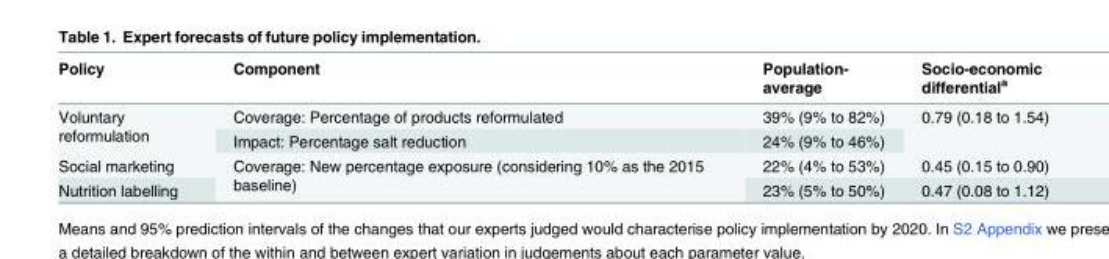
<table><thead><tr><td>Policy</td><td>Component</td><td>Population- average</td><td>Socio-economic differential<sup>a</sup></td></tr></thead><tbody><tr><td rowspan="2">Voluntary reformulation</td><td>Coverage: Percentage of products reformulated</td><td>39% (9% to 82%)</td><td rowspan="2">0.79 (0.18 to 1.54)</td></tr><tr><td>Impact: Percentage salt reduction</td><td>24% (9% to 46%)</td></tr><tr><td>Social marketing</td><td rowspan="2">Coverage: New percentage exposure (considering 10% as the 2015 baseline)</td><td>22% (4% to 53%)</td><td>0.45 (0.15 to 0.90)</td></tr><tr><td>Nutrition labelling</td><td>23% (5% to 50%)</td><td>0.47 (0.08 to 1.12)</td></tr></tbody></table>